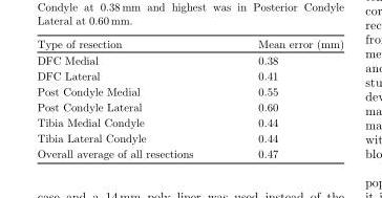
<table><thead><tr><td>Type of resection</td><td>Mean error (mm)</td></tr></thead><tbody><tr><td>DFC Medial</td><td>0.38</td></tr><tr><td>DFC Lateral</td><td>0.41</td></tr><tr><td>Post Condyle Medial</td><td>0.55</td></tr><tr><td>Post Condyle Lateral</td><td>0.60</td></tr><tr><td>Tibia Medial Condyle</td><td>0.44</td></tr><tr><td>Tibia Lateral Condyle</td><td>0.44</td></tr><tr><td>Overall average of all resections</td><td>0.47</td></tr></tbody></table>